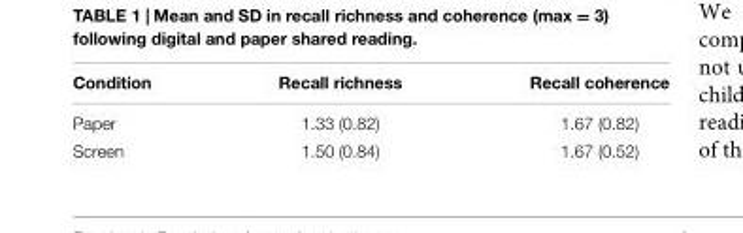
<table><thead><tr><td>Condition</td><td>Recall richness</td><td>Recall coherence</td></tr></thead><tbody><tr><td>Paper</td><td>1.33 (0.82)</td><td>1.67 (0.82)</td></tr><tr><td>Screen</td><td>1.50 (0.84)</td><td>1.67 (0.52)</td></tr></tbody></table>